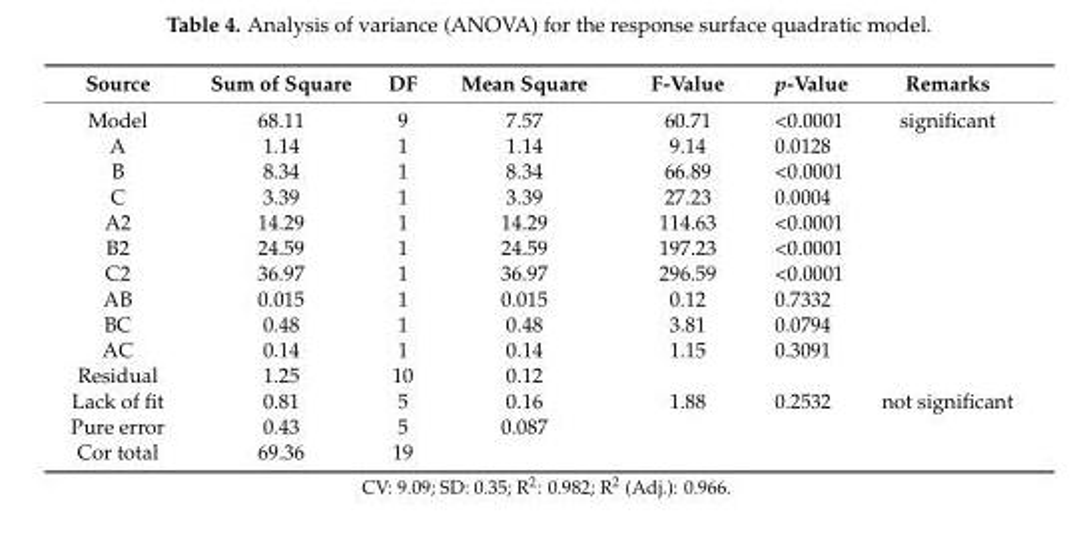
<table><thead><tr><td>Source</td><td>Sum of Square</td><td>DF</td><td>Mean Square</td><td>F-Value</td><td>p-Value</td><td>Remarks</td></tr></thead><tbody><tr><td>Model</td><td>68.11</td><td>9</td><td>7.57</td><td>60.71</td><td>&lt;0.0001</td><td>significant</td></tr><tr><td>A</td><td>1.14</td><td>1</td><td>1.14</td><td>9.14</td><td>0.0128</td><td></td></tr><tr><td>B</td><td>8.34</td><td>1</td><td>8.34</td><td>66.89</td><td>&lt;0.0001</td><td></td></tr><tr><td>C</td><td>3.39</td><td>1</td><td>3.39</td><td>27.23</td><td>0.0004</td><td></td></tr><tr><td>A2</td><td>14.29</td><td>1</td><td>14.29</td><td>114.63</td><td>&lt;0.0001</td><td></td></tr><tr><td>B2</td><td>24.59</td><td>1</td><td>24.59</td><td>197.23</td><td>&lt;0.0001</td><td></td></tr><tr><td>C2</td><td>36.97</td><td>1</td><td>36.97</td><td>296.59</td><td>&lt;0.0001</td><td></td></tr><tr><td>AB</td><td>0.015</td><td>1</td><td>0.015</td><td>0.12</td><td>0.7332</td><td></td></tr><tr><td>BC</td><td>0.48</td><td>1</td><td>0.48</td><td>3.81</td><td>0.0794</td><td></td></tr><tr><td>AC</td><td>0.14</td><td>1</td><td>0.14</td><td>1.15</td><td>0.3091</td><td></td></tr><tr><td>Residual</td><td>1.25</td><td>10</td><td>0.12</td><td></td><td></td><td></td></tr><tr><td>Lack of fit</td><td>0.81</td><td>5</td><td>0.16</td><td>1.88</td><td>0.2532</td><td>not significant</td></tr><tr><td>Pure error</td><td>0.43</td><td>5</td><td>0.087</td><td></td><td></td><td></td></tr><tr><td>Cor total</td><td>69.36</td><td>19</td><td></td><td></td><td></td><td></td></tr></tbody></table>